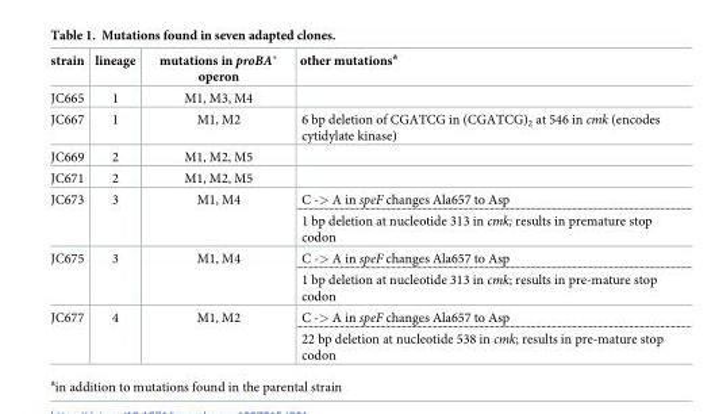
<table><thead><tr><td>strain</td><td>lineage</td><td>mutations in proBA* operon</td><td>other mutations<sup>a</sup></td></tr></thead><tbody><tr><td>JC665</td><td>1</td><td>M1, M3, M4</td><td></td></tr><tr><td>JC667</td><td>1</td><td>M1, M2</td><td>6 bp deletion of CGATCG in (CGATCG)<sub>2</sub> at 546 in cmk (encodes cytidylate kinase)</td></tr><tr><td>JC669</td><td>2</td><td>M1, M2, M5</td><td></td></tr><tr><td>JC671</td><td>2</td><td>M1, M2, M5</td><td></td></tr><tr><td rowspan="2">JC673</td><td rowspan="2">3</td><td rowspan="2">M1, M4</td><td>C -&gt; A in speF changes Ala657 to Asp</td></tr><tr><td>1 bp deletion at nucleotide 313 in cmk; results in premature stop codon</td></tr><tr><td rowspan="2">JC675</td><td rowspan="2">3</td><td rowspan="2">M1, M4</td><td>C -&gt; A in speF changes Ala657 to Asp</td></tr><tr><td>1 bp deletion at nucleotide 313 in cmk; results in pre-mature stop codon</td></tr><tr><td rowspan="2">JC677</td><td rowspan="2">4</td><td rowspan="2">M1, M2</td><td>C -&gt; A in speF changes Ala657 to Asp</td></tr><tr><td>22 bp deletion at nucleotide 538 in cmk; results in pre-mature stop codon</td></tr></tbody></table>